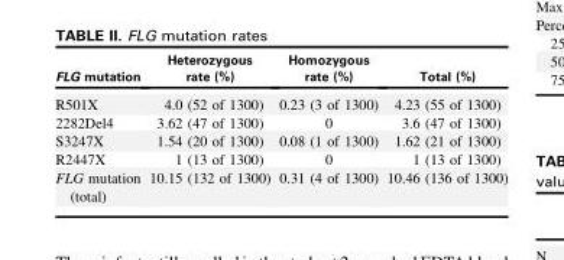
<table><thead><tr><td>FLG mutation</td><td>Heterozygous rate (%)</td><td>Homozygous rate (%)</td><td>Total (%)</td></tr></thead><tbody><tr><td>R501X</td><td>4.0 (52 of 1300)</td><td>0.23 (3 of 1300)</td><td>4.23 (55 of 1300)</td></tr><tr><td>2282Del4</td><td>3.62 (47 of 1300)</td><td>0</td><td>3.6 (47 of 1300)</td></tr><tr><td>S3247X</td><td>1.54 (20 of 1300)</td><td>0.08 (1 of 1300)</td><td>1.62 (21 of 1300)</td></tr><tr><td>R2447X</td><td>1 (13 of 1300)</td><td>0</td><td>1 (13 of 1300)</td></tr><tr><td>FLG mutation (total)</td><td>10.15 (132 of 1300)</td><td>0.31 (4 of 1300)</td><td>10.46 (136 of 1300)</td></tr></tbody></table>